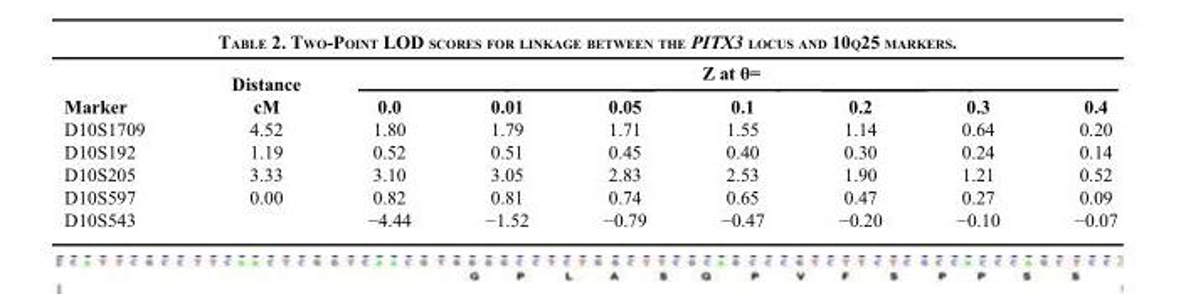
<table><thead><tr><td rowspan="2">Marker</td><td rowspan="2">Distance cM</td><td colspan="7">Z at θ=</td></tr><tr><td>0.0</td><td>0.01</td><td>0.05</td><td>0.1</td><td>0.2</td><td>0.3</td><td>0.4</td></tr></thead><tbody><tr><td>D10S1709</td><td>4.52</td><td>1.80</td><td>1.79</td><td>1.71</td><td>1.55</td><td>1.14</td><td>0.64</td><td>0.20</td></tr><tr><td>D10S192</td><td>1.19</td><td>0.52</td><td>0.51</td><td>0.45</td><td>0.40</td><td>0.30</td><td>0.24</td><td>0.14</td></tr><tr><td>D10S205</td><td>3.33</td><td>3.10</td><td>3.05</td><td>2.83</td><td>2.53</td><td>1.90</td><td>1.21</td><td>0.52</td></tr><tr><td>D10S597</td><td>0.00</td><td>0.82</td><td>0.81</td><td>0.74</td><td>0.65</td><td>0.47</td><td>0.27</td><td>0.09</td></tr><tr><td>D10S543</td><td></td><td>−4.44</td><td>−1.52</td><td>−0.79</td><td>−0.47</td><td>−0.20</td><td>−0.10</td><td>−0.07</td></tr></tbody></table>